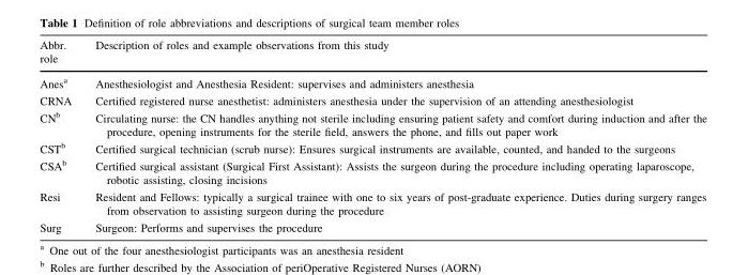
<table><thead><tr><td>Abbr. role</td><td>Description of roles and example observations from this study</td></tr></thead><tbody><tr><td>Anes<sup>a</sup></td><td>Anesthesiologist and Anesthesia Resident: supervises and administers anesthesia</td></tr><tr><td>CRNA</td><td>Certified registered nurse anesthetist: administers anesthesia under the supervision of an attending anesthesiologist</td></tr><tr><td>CN<sup>b</sup></td><td>Circulating nurse: the CN handles anything not sterile including ensuring patient safety and comfort during induction and after the procedure, opening instruments for the sterile field, answers the phone, and fills out paper work</td></tr><tr><td>CST<sup>b</sup></td><td>Certified surgical technician (scrub nurse): Ensures surgical instruments are available, counted, and handed to the surgeons</td></tr><tr><td>CSA<sup>b</sup></td><td>Certified surgical assistant (Surgical First Assistant): Assists the surgeon during the procedure including operating laparoscope, robotic assisting, closing incisions</td></tr><tr><td>Resi</td><td>Resident and Fellows: typically a surgical trainee with one to six years of post-graduate experience. Duties during surgery ranges from observation to assisting surgeon during the procedure</td></tr><tr><td>Surg</td><td>Surgeon: Performs and supervises the procedure</td></tr></tbody></table>